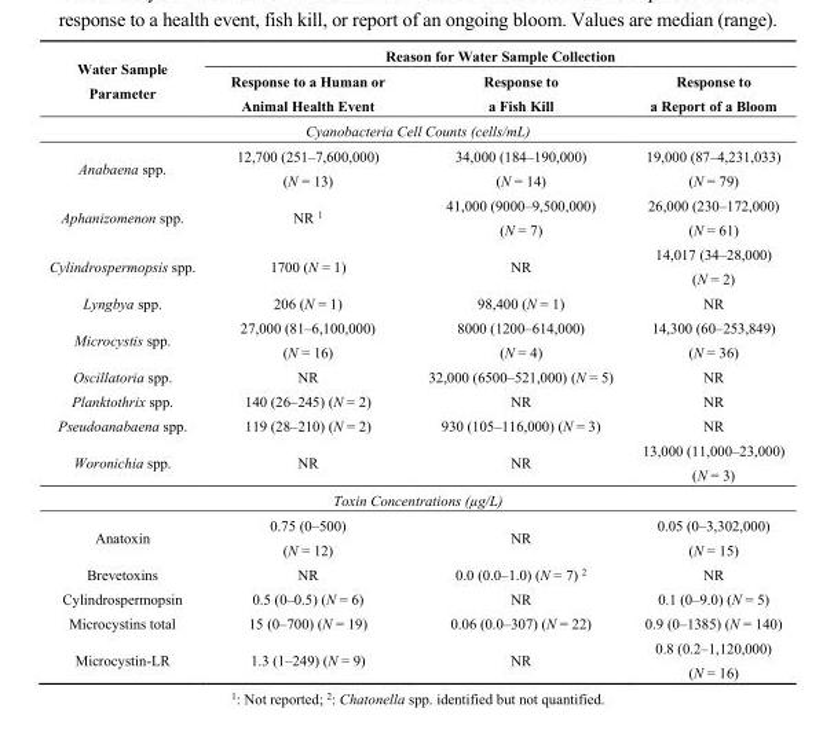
<table><thead><tr><td rowspan="2">Water Sample Parameter</td><td colspan="3">Reason for Water Sample Collection</td></tr><tr><td>Response to a Human or Animal Health Event</td><td>Response to a Fish Kill</td><td>Response to a Report of a Bloom</td></tr></thead><tbody><tr><td colspan="4">Cyanobacteria Cell Counts (cells/mL)</td></tr><tr><td>Anabaena spp.</td><td>12,700 (251–7,600,000) (N = 13)</td><td>34,000 (184–190,000) (N = 14)</td><td>19,000 (87–4,231,033) (N = 79)</td></tr><tr><td>Aphanizomenon spp.</td><td>NR <sup>1</sup></td><td>41,000 (9000–9,500,000) (N = 7)</td><td>26,000 (230–172,000) (N = 61)</td></tr><tr><td>Cylindrospermopsis spp.</td><td>1700 (N = 1)</td><td>NR</td><td>14,017 (34–28,000) (N = 2)</td></tr><tr><td>Lyngbya spp.</td><td>206 (N = 1)</td><td>98,400 (N = 1)</td><td>NR</td></tr><tr><td>Microcystis spp.</td><td>27,000 (81–6,100,000) (N = 16)</td><td>8000 (1200–614,000) (N = 4)</td><td>14,300 (60–253,849) (N = 36)</td></tr><tr><td>Oscillatoria spp.</td><td>NR</td><td>32,000 (6500–521,000) (N = 5)</td><td>NR</td></tr><tr><td>Planktothrix spp.</td><td>140 (26–245) (N = 2)</td><td>NR</td><td>NR</td></tr><tr><td>Pseudoanabaena spp.</td><td>119 (28–210) (N = 2)</td><td>930 (105–116,000) (N = 3)</td><td>NR</td></tr><tr><td>Woronichia spp.</td><td>NR</td><td>NR</td><td>13,000 (11,000–23,000) (N = 3)</td></tr><tr><td colspan="4">Toxin Concentrations (µg/L)</td></tr><tr><td>Anatoxin</td><td>0.75 (0–500) (N = 12)</td><td>NR</td><td>0.05 (0–3,302,000) (N = 15)</td></tr><tr><td>Brevetoxins</td><td>NR</td><td>0.0 (0.0–1.0) (N = 7) <sup>2</sup></td><td>NR</td></tr><tr><td>Cylindrospermopsin</td><td>0.5 (0–0.5) (N = 6)</td><td>NR</td><td>0.1 (0–9.0) (N = 5)</td></tr><tr><td>Microcystins total</td><td>15 (0–700) (N = 19)</td><td>0.06 (0.0–307) (N = 22)</td><td>0.9 (0–1385) (N = 140)</td></tr><tr><td>Microcystin-LR</td><td>1.3 (1–249) (N = 9)</td><td>NR</td><td>0.8 (0.2–1,120,000) (N = 16)</td></tr></tbody></table>